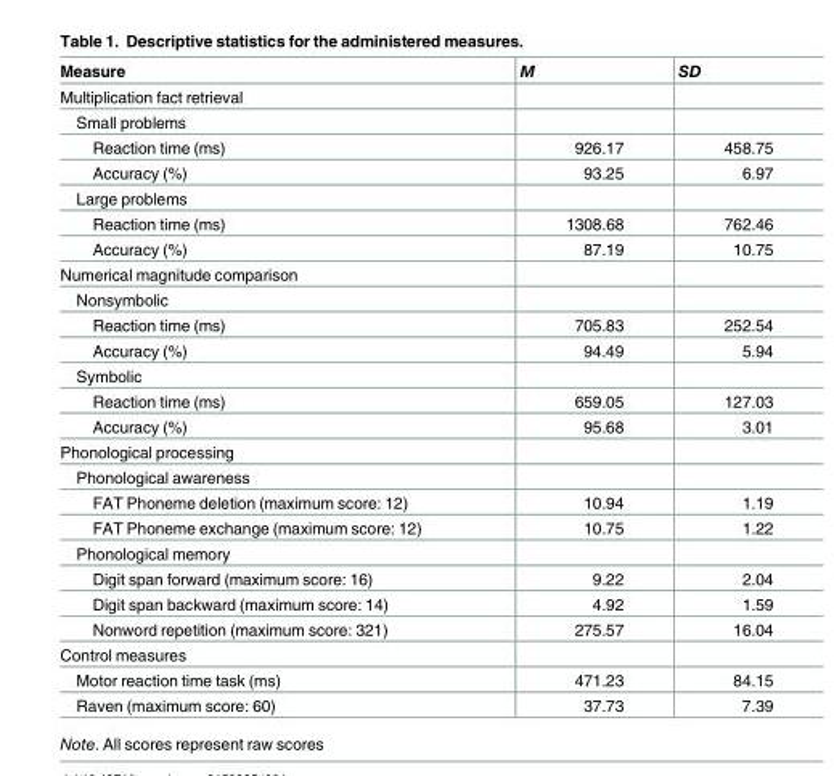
<table><thead><tr><td>Measure</td><td>M</td><td>SD</td></tr></thead><tbody><tr><td colspan="3">Multiplication fact retrieval</td></tr><tr><td colspan="3">Small problems</td></tr><tr><td>Reaction time (ms)</td><td>926.17</td><td>458.75</td></tr><tr><td>Accuracy (%)</td><td>93.25</td><td>6.97</td></tr><tr><td colspan="3">Large problems</td></tr><tr><td>Reaction time (ms)</td><td>1308.68</td><td>762.46</td></tr><tr><td>Accuracy (%)</td><td>87.19</td><td>10.75</td></tr><tr><td colspan="3">Numerical magnitude comparison</td></tr><tr><td colspan="3">Nonsymbolic</td></tr><tr><td>Reaction time (ms)</td><td>705.83</td><td>252.54</td></tr><tr><td>Accuracy (%)</td><td>94.49</td><td>5.94</td></tr><tr><td colspan="3">Symbolic</td></tr><tr><td>Reaction time (ms)</td><td>659.05</td><td>127.03</td></tr><tr><td>Accuracy (%)</td><td>95.68</td><td>3.01</td></tr><tr><td colspan="3">Phonological processing</td></tr><tr><td colspan="3">Phonological awareness</td></tr><tr><td>FAT Phoneme deletion (maximum score: 12)</td><td>10.94</td><td>1.19</td></tr><tr><td>FAT Phoneme exchange (maximum score: 12)</td><td>10.75</td><td>1.22</td></tr><tr><td colspan="3">Phonological memory</td></tr><tr><td>Digit span forward (maximum score: 16)</td><td>9.22</td><td>2.04</td></tr><tr><td>Digit span backward (maximum score: 14)</td><td>4.92</td><td>1.59</td></tr><tr><td>Nonword repetition (maximum score: 321)</td><td>275.57</td><td>16.04</td></tr><tr><td colspan="3">Control measures</td></tr><tr><td>Motor reaction time task (ms)</td><td>471.23</td><td>84.15</td></tr><tr><td>Raven (maximum score: 60)</td><td>37.73</td><td>7.39</td></tr></tbody></table>